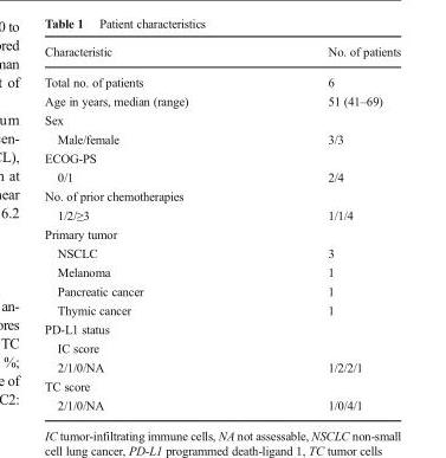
<table><thead><tr><td>Characteristic</td><td>No. of patients</td></tr></thead><tbody><tr><td>Total no. of patients</td><td>6</td></tr><tr><td>Age in years, median (range)</td><td>51 (41–69)</td></tr><tr><td colspan="2">Sex</td></tr><tr><td>Male/female</td><td>3/3</td></tr><tr><td colspan="2">ECOG-PS</td></tr><tr><td>0/1</td><td>2/4</td></tr><tr><td colspan="2">No. of prior chemotherapies</td></tr><tr><td>1/2/≥3</td><td>1/1/4</td></tr><tr><td colspan="2">Primary tumor</td></tr><tr><td>NSCLC</td><td>3</td></tr><tr><td>Melanoma</td><td>1</td></tr><tr><td>Pancreatic cancer</td><td>1</td></tr><tr><td>Thymic cancer</td><td>1</td></tr><tr><td colspan="2">PD-L1 status</td></tr><tr><td colspan="2">IC score</td></tr><tr><td>2/1/0/NA</td><td>1/2/2/1</td></tr><tr><td colspan="2">TC score</td></tr><tr><td>2/1/0/NA</td><td>1/0/4/1</td></tr></tbody></table>